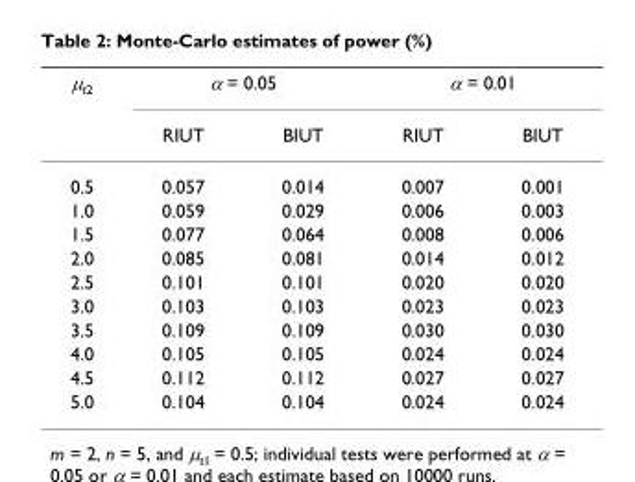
<table><thead><tr><td rowspan="2">μ<sub>t2</sub></td><td colspan="2">α = 0.05</td><td colspan="2">α = 0.01</td></tr><tr><td>RIUT</td><td>BIUT</td><td>RIUT</td><td>BIUT</td></tr></thead><tbody><tr><td>0.5</td><td>0.057</td><td>0.014</td><td>0.007</td><td>0.001</td></tr><tr><td>1.0</td><td>0.059</td><td>0.029</td><td>0.006</td><td>0.003</td></tr><tr><td>1.5</td><td>0.077</td><td>0.064</td><td>0.008</td><td>0.006</td></tr><tr><td>2.0</td><td>0.085</td><td>0.081</td><td>0.014</td><td>0.012</td></tr><tr><td>2.5</td><td>0.101</td><td>0.101</td><td>0.020</td><td>0.020</td></tr><tr><td>3.0</td><td>0.103</td><td>0.103</td><td>0.023</td><td>0.023</td></tr><tr><td>3.5</td><td>0.109</td><td>0.109</td><td>0.030</td><td>0.030</td></tr><tr><td>4.0</td><td>0.105</td><td>0.105</td><td>0.024</td><td>0.024</td></tr><tr><td>4.5</td><td>0.112</td><td>0.112</td><td>0.027</td><td>0.027</td></tr><tr><td>5.0</td><td>0.104</td><td>0.104</td><td>0.024</td><td>0.024</td></tr></tbody></table>